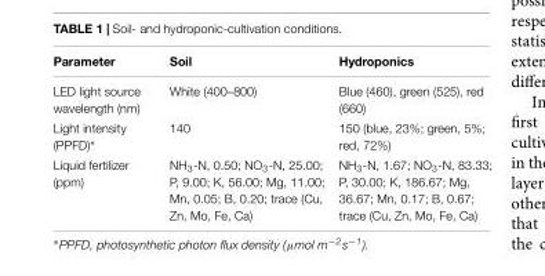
<table><thead><tr><td>Parameter</td><td>Soil</td><td>Hydroponics</td></tr></thead><tbody><tr><td>LED light source wavelength (nm)</td><td>White (400–800)</td><td>Blue (460), green (525), red (660)</td></tr><tr><td>Light intensity (PPFD)∗</td><td>140</td><td>150 (blue, 23%; green, 5%; red, 72%)</td></tr><tr><td>Liquid fertilizer (ppm)</td><td>NH<sub>3</sub>-N, 0.50; NO<sub>3</sub>-N, 25.00; P, 9.00; K, 56.00; Mg, 11.00; Mn, 0.05; B, 0.20; trace (Cu, Zn, Mo, Fe, Ca)</td><td>NH<sub>3</sub>-N, 1.67; NO<sub>3</sub>-N, 83.33; P, 30.00; K, 186.67; Mg, 36.67; Mn, 0.17; B, 0.67; trace (Cu, Zn, Mo, Fe, Ca)</td></tr></tbody></table>